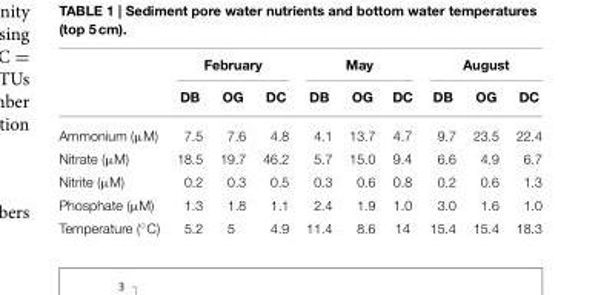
<table><thead><tr><td rowspan="2"></td><td colspan="3">February</td><td colspan="3">May</td><td colspan="3">August</td></tr><tr><td>DB</td><td>OG</td><td>DC</td><td>DB</td><td>OG</td><td>DC</td><td>DB</td><td>OG</td><td>DC</td></tr></thead><tbody><tr><td>Ammonium (µM)</td><td>7.5</td><td>7.6</td><td>4.8</td><td>4.1</td><td>13.7</td><td>4.7</td><td>9.7</td><td>23.5</td><td>22.4</td></tr><tr><td>Nitrate (µM)</td><td>18.5</td><td>19.7</td><td>46.2</td><td>5.7</td><td>15.0</td><td>9.4</td><td>6.6</td><td>4.9</td><td>6.7</td></tr><tr><td>Nitrite (µM)</td><td>0.2</td><td>0.3</td><td>0.5</td><td>0.3</td><td>0.6</td><td>0.8</td><td>0.2</td><td>0.6</td><td>1.3</td></tr><tr><td>Phosphate (µM)</td><td>1.3</td><td>1.8</td><td>1.1</td><td>2.4</td><td>1.9</td><td>1.0</td><td>3.0</td><td>1.6</td><td>1.0</td></tr><tr><td>Temperature (◦C)</td><td>5.2</td><td>5</td><td>4.9</td><td>11.4</td><td>8.6</td><td>14</td><td>15.4</td><td>15.4</td><td>18.3</td></tr></tbody></table>